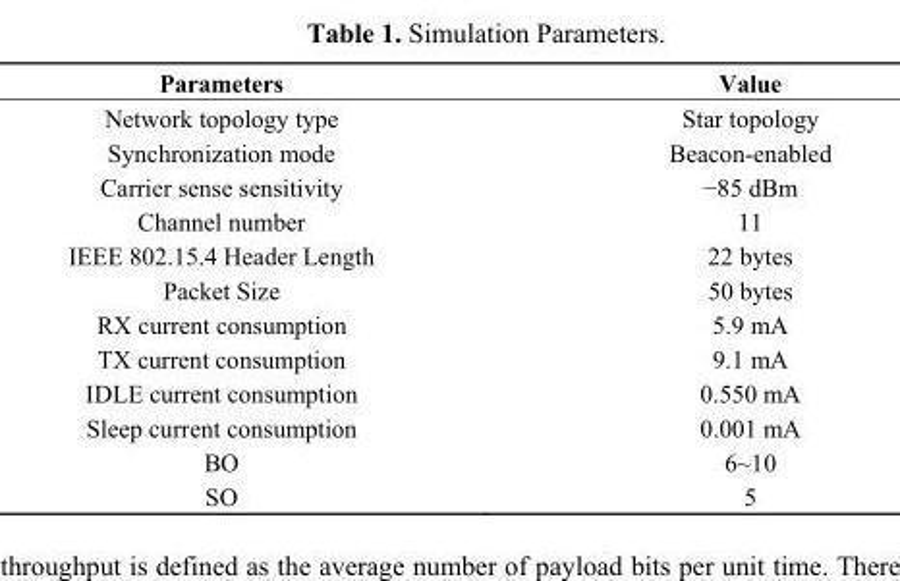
<table><thead><tr><td>Parameters</td><td>Value</td></tr></thead><tbody><tr><td>Network topology type</td><td>Star topology</td></tr><tr><td>Synchronization mode</td><td>Beacon-enabled</td></tr><tr><td>Carrier sense sensitivity</td><td>−85 dBm</td></tr><tr><td>Channel number</td><td>11</td></tr><tr><td>IEEE 802.15.4 Header Length</td><td>22 bytes</td></tr><tr><td>Packet Size</td><td>50 bytes</td></tr><tr><td>RX current consumption</td><td>5.9 mA</td></tr><tr><td>TX current consumption</td><td>9.1 mA</td></tr><tr><td>IDLE current consumption</td><td>0.550 mA</td></tr><tr><td>Sleep current consumption</td><td>0.001 mA</td></tr><tr><td>BO</td><td>6~10</td></tr><tr><td>SO</td><td>5</td></tr></tbody></table>